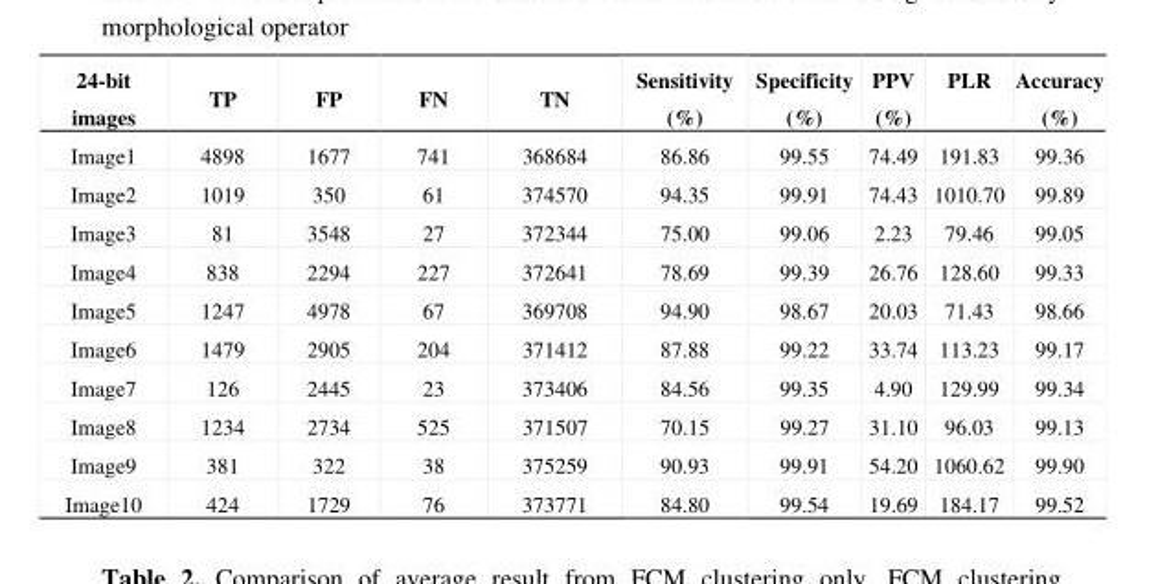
<table><thead><tr><td>24-bit images</td><td>TP</td><td>FP</td><td>FN</td><td>TN</td><td>Sensitivity (%)</td><td>Specificity (%)</td><td>PPV (%)</td><td>PLR</td><td>Accuracy (%)</td></tr></thead><tbody><tr><td>Image1</td><td>4898</td><td>1677</td><td>741</td><td>368684</td><td>86.86</td><td>99.55</td><td>74.49</td><td>191.83</td><td>99.36</td></tr><tr><td>Image2</td><td>1019</td><td>350</td><td>61</td><td>374570</td><td>94.35</td><td>99.91</td><td>74.43</td><td>1010.70</td><td>99.89</td></tr><tr><td>Image3</td><td>81</td><td>3548</td><td>27</td><td>372344</td><td>75.00</td><td>99.06</td><td>2.23</td><td>79.46</td><td>99.05</td></tr><tr><td>Image4</td><td>838</td><td>2294</td><td>227</td><td>372641</td><td>78.69</td><td>99.39</td><td>26.76</td><td>128.60</td><td>99.33</td></tr><tr><td>Image5</td><td>1247</td><td>4978</td><td>67</td><td>369708</td><td>94.90</td><td>98.67</td><td>20.03</td><td>71.43</td><td>98.66</td></tr><tr><td>Image6</td><td>1479</td><td>2905</td><td>204</td><td>371412</td><td>87.88</td><td>99.22</td><td>33.74</td><td>113.23</td><td>99.17</td></tr><tr><td>Image7</td><td>126</td><td>2445</td><td>23</td><td>373406</td><td>84.56</td><td>99.35</td><td>4.90</td><td>129.99</td><td>99.34</td></tr><tr><td>Image8</td><td>1234</td><td>2734</td><td>525</td><td>371507</td><td>70.15</td><td>99.27</td><td>31.10</td><td>96.03</td><td>99.13</td></tr><tr><td>Image9</td><td>381</td><td>322</td><td>38</td><td>375259</td><td>90.93</td><td>99.91</td><td>54.20</td><td>1060.62</td><td>99.90</td></tr><tr><td>Image10</td><td>424</td><td>1729</td><td>76</td><td>373771</td><td>84.80</td><td>99.54</td><td>19.69</td><td>184.17</td><td>99.52</td></tr></tbody></table>